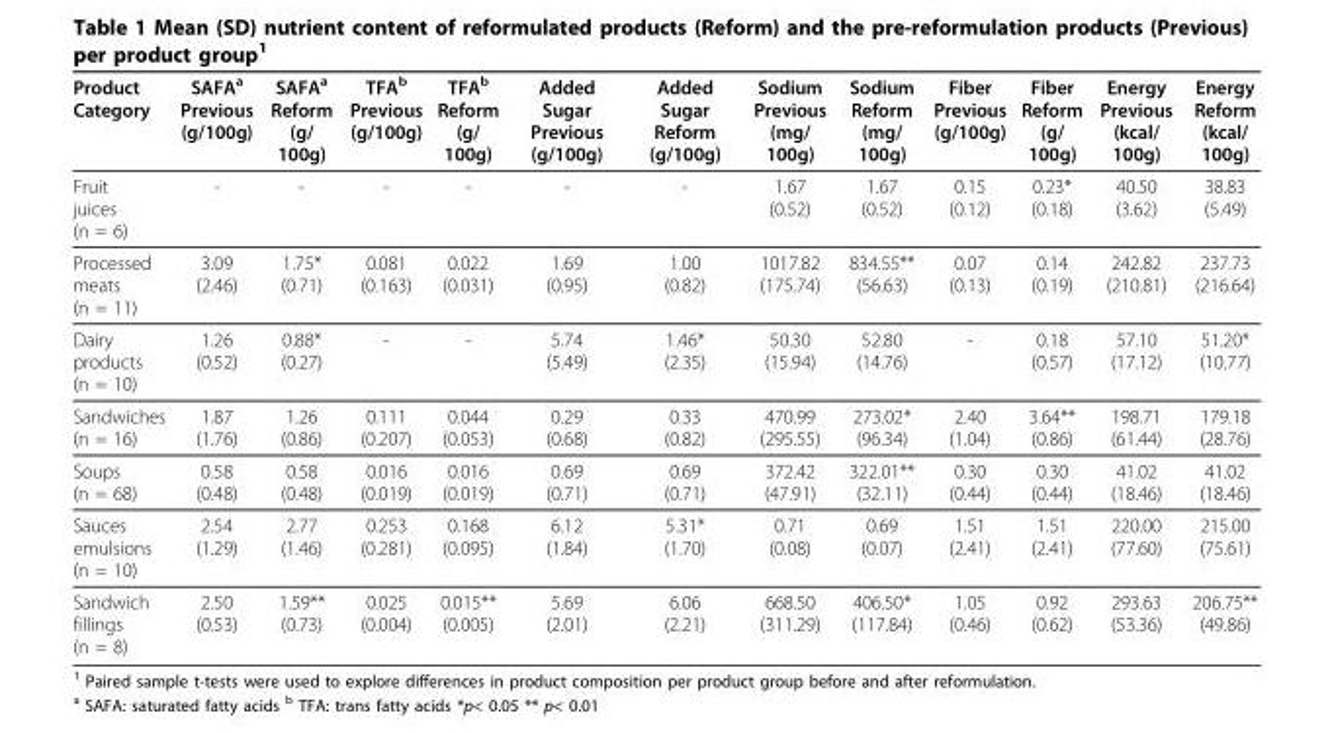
<table><thead><tr><td>Product Category</td><td>SAFA<sup>a</sup> Previous (g/100g)</td><td>SAFA<sup>a</sup> Reform (g/ 100g)</td><td>TFA<sup>b</sup> Previous (g/100g)</td><td>TFA<sup>b</sup> Reform (g/ 100g)</td><td>Added Sugar Previous (g/100g)</td><td>Added Sugar Reform (g/100g)</td><td>Sodium Previous (mg/ 100g)</td><td>Sodium Reform (mg/ 100g)</td><td>Fiber Previous (g/100g)</td><td>Fiber Reform (g/ 100g)</td><td>Energy Previous (kcal/ 100g)</td><td>Energy Reform (kcal/ 100g)</td></tr></thead><tbody><tr><td>Fruit juices (n = 6)</td><td>-</td><td>-</td><td>-</td><td>-</td><td>-</td><td>-</td><td>1.67 (0.52)</td><td>1.67 (0.52)</td><td>0.15 (0.12)</td><td>0.23* (0.18)</td><td>40.50 (3.62)</td><td>38.83 (5.49)</td></tr><tr><td>Processed meats (n = 11)</td><td>3.09 (2.46)</td><td>1.75* (0.71)</td><td>0.081 (0.163)</td><td>0.022 (0.031)</td><td>1.69 (0.95)</td><td>1.00 (0.82)</td><td>1017.82 (175.74)</td><td>834.55** (56.63)</td><td>0.07 (0.13)</td><td>0.14 (0.19)</td><td>242.82 (210.81)</td><td>237.73 (216.64)</td></tr><tr><td>Dairy products (n = 10)</td><td>1.26 (0.52)</td><td>0.88* (0.27)</td><td>-</td><td>-</td><td>5.74 (5.49)</td><td>1.46* (2.35)</td><td>50.30 (15.94)</td><td>52.80 (14.76)</td><td>-</td><td>0.18 (0.57)</td><td>57.10 (17.12)</td><td>51.20* (10.77)</td></tr><tr><td>Sandwiches (n = 16)</td><td>1.87 (1.76)</td><td>1.26 (0.86)</td><td>0.111 (0.207)</td><td>0.044 (0.053)</td><td>0.29 (0.68)</td><td>0.33 (0.82)</td><td>470.99 (295.55)</td><td>273.02* (96.34)</td><td>2.40 (1.04)</td><td>3.64** (0.86)</td><td>198.71 (61.44)</td><td>179.18 (28.76)</td></tr><tr><td>Soups (n = 68)</td><td>0.58 (0.48)</td><td>0.58 (0.48)</td><td>0.016 (0.019)</td><td>0.016 (0.019)</td><td>0.69 (0.71)</td><td>0.69 (0.71)</td><td>372.42 (47.91)</td><td>322.01** (32.11)</td><td>0.30 (0.44)</td><td>0.30 (0.44)</td><td>41.02 (18.46)</td><td>41.02 (18.46)</td></tr><tr><td>Sauces emulsions (n = 10)</td><td>2.54 (1.29)</td><td>2.77 (1.46)</td><td>0.253 (0.281)</td><td>0.168 (0.095)</td><td>6.12 (1.84)</td><td>5.31* (1.70)</td><td>0.71 (0.08)</td><td>0.69 (0.07)</td><td>1.51 (2.41)</td><td>1.51 (2.41)</td><td>220.00 (77.60)</td><td>215.00 (75.61)</td></tr><tr><td>Sandwich fillings (n = 8)</td><td>2.50 (0.53)</td><td>1.59** (0.73)</td><td>0.025 (0.004)</td><td>0.015** (0.005)</td><td>5.69 (2.01)</td><td>6.06 (2.21)</td><td>668.50 (311.29)</td><td>406.50* (117.84)</td><td>1.05 (0.46)</td><td>0.92 (0.62)</td><td>293.63 (53.36)</td><td>206.75** (49.86)</td></tr></tbody></table>